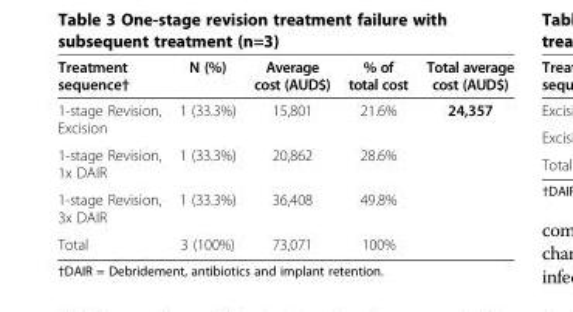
<table><thead><tr><td>Treatment sequence†</td><td>N (%)</td><td>Average cost (AUD$)</td><td>% of total cost</td><td>Total average cost (AUD$)</td></tr></thead><tbody><tr><td>1-stage Revision, Excision</td><td>1 (33.3%)</td><td>15,801</td><td>21.6%</td><td rowspan="3">24,357</td></tr><tr><td>1-stage Revision, 1x DAIR</td><td>1 (33.3%)</td><td>20,862</td><td>28.6%</td></tr><tr><td>1-stage Revision, 3x DAIR</td><td>1 (33.3%)</td><td>36,408</td><td>49.8%</td></tr><tr><td>Total</td><td>3 (100%)</td><td>73,071</td><td>100%</td><td></td></tr></tbody></table>